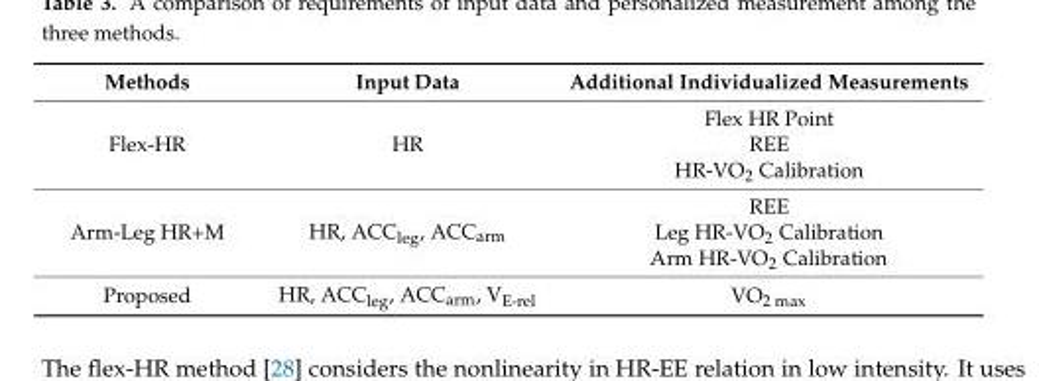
<table><thead><tr><td>Methods</td><td>Input Data</td><td>Additional Individualized Measurements</td></tr></thead><tbody><tr><td>Flex-HR</td><td>HR</td><td>Flex HR Point REE HR-VO<sub>2</sub> Calibration</td></tr><tr><td>Arm-Leg HR+M</td><td>HR, ACC<sub>leg</sub>, ACC<sub>arm</sub></td><td>REE Leg HR-VO<sub>2</sub> Calibration Arm HR-VO<sub>2</sub> Calibration</td></tr><tr><td>Proposed</td><td>HR, ACC<sub>leg</sub>, ACC<sub>arm</sub>, V<sub>E-rel</sub></td><td>VO<sub>2 max</sub></td></tr></tbody></table>